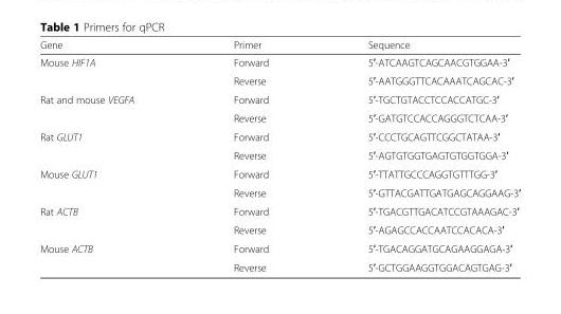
<table><thead><tr><td>Gene</td><td>Primer</td><td>Sequence</td></tr></thead><tbody><tr><td rowspan="2">Mouse HIF1A</td><td>Forward</td><td>5′-ATCAAGTCAGCAACGTGGAA-3′</td></tr><tr><td>Reverse</td><td>5′-AATGGGTTCACAAATCAGCAC-3′</td></tr><tr><td rowspan="2">Rat and mouse VEGFA</td><td>Forward</td><td>5′-TGCTGTACCTCCACCATGC-3′</td></tr><tr><td>Reverse</td><td>5′-GATGTCCACCAGGGTCTCAA-3′</td></tr><tr><td rowspan="2">Rat GLUT1</td><td>Forward</td><td>5′-CCCTGCAGTTCGGCTATAA-3′</td></tr><tr><td>Reverse</td><td>5′-AGTGTGGTGAGTGTGGTGGA-3′</td></tr><tr><td rowspan="2">Mouse GLUT1</td><td>Forward</td><td>5′-TTATTGCCCAGGTGTTTGG-3′</td></tr><tr><td>Reverse</td><td>5′-GTTACGATTGATGAGCAGGAAG-3′</td></tr><tr><td rowspan="2">Rat ACTB</td><td>Forward</td><td>5′-TGACGTTGACATCCGTAAAGAC-3′</td></tr><tr><td>Reverse</td><td>5′-AGAGCCACCAATCCACACA-3′</td></tr><tr><td rowspan="2">Mouse ACTB</td><td>Forward</td><td>5′-TGACAGGATGCAGAAGGAGA-3′</td></tr><tr><td>Reverse</td><td>5′-GCTGGAAGGTGGACAGTGAG-3′</td></tr></tbody></table>